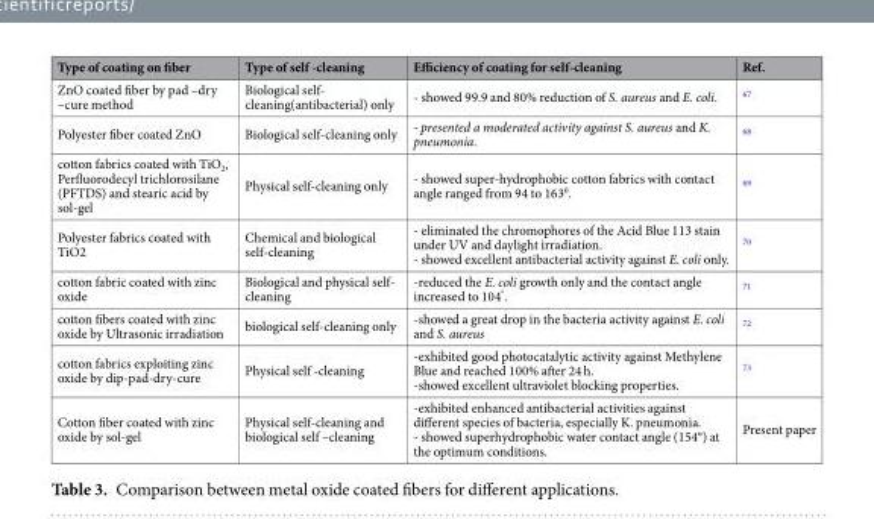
<table><thead><tr><td>Type of coating on fiber</td><td>Type of self -cleaning</td><td>Efficiency of coating for self-cleaning</td><td>Ref.</td></tr></thead><tbody><tr><td>ZnO coated fiber by pad –dry –cure method</td><td>Biological self- cleaning(antibacterial) only</td><td>- showed 99.9 and 80% reduction of S. aureus and E. coli.</td><td><sup>67</sup></td></tr><tr><td>Polyester fiber coated ZnO</td><td>Biological self-cleaning only</td><td>- presented a moderated activity against S. aureus and K. pneumonia.</td><td><sup>68</sup></td></tr><tr><td>cotton fabrics coated with TiO<sub>2</sub>, Perfluorodecyl trichlorosilane (PFTDS) and stearic acid by sol-gel</td><td>Physical self-cleaning only</td><td>- showed super-hydrophobic cotton fabrics with contact angle ranged from 94 to 163<sup>0</sup>.</td><td><sup>69</sup></td></tr><tr><td>Polyester fabrics coated with TiO2</td><td>Chemical and biological self-cleaning</td><td>- eliminated the chromophores of the Acid Blue 113 stain under UV and daylight irradiation. - showed excellent antibacterial activity against E. coli only.</td><td><sup>70</sup></td></tr><tr><td>cotton fabric coated with zinc oxide</td><td>Biological and physical self- cleaning</td><td>-reduced the E. coli growth only and the contact angle increased to 104<sup>°</sup>.</td><td><sup>71</sup></td></tr><tr><td>cotton fibers coated with zinc oxide by Ultrasonic irradiation</td><td>biological self-cleaning only</td><td>-showed a great drop in the bacteria activity against E. coli and S. aureus</td><td><sup>72</sup></td></tr><tr><td>cotton fabrics exploiting zinc oxide by dip-pad-dry-cure</td><td>Physical self -cleaning</td><td>-exhibited good photocatalytic activity against Methylene Blue and reached 100% after 24 h. -showed excellent ultraviolet blocking properties.</td><td><sup>73</sup></td></tr><tr><td>Cotton fiber coated with zinc oxide by sol-gel</td><td>Physical self-cleaning and biological self –cleaning</td><td>-exhibited enhanced antibacterial activities against different species of bacteria, especially K. pneumonia. - showed superhydrophobic water contact angle (154°) at the optimum conditions.</td><td>Present paper</td></tr></tbody></table>